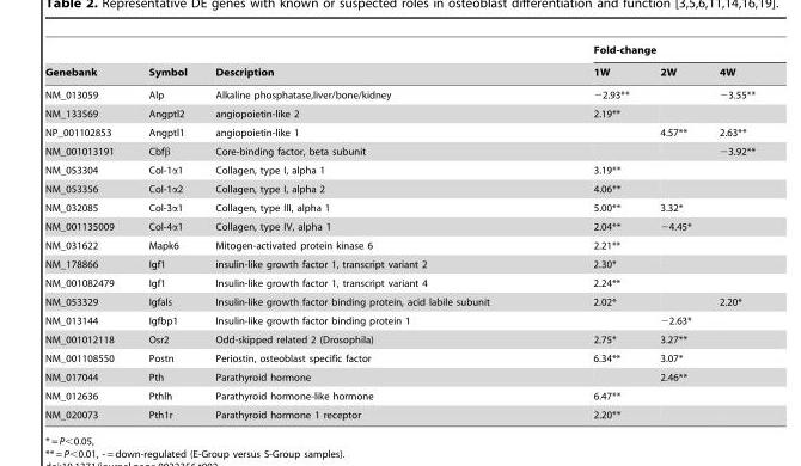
<table><thead><tr><td rowspan="2">Genebank</td><td rowspan="2">Symbol</td><td rowspan="2">Description</td><td colspan="3">Fold-change</td></tr><tr><td>1W</td><td>2W</td><td>4W</td></tr></thead><tbody><tr><td>NM_013059</td><td>Alp</td><td>Alkaline phosphatase,liver/bone/kidney</td><td>−2.93**</td><td></td><td>−3.55**</td></tr><tr><td>NM_133569</td><td>Angptl2</td><td>angiopoietin-like 2</td><td>2.19**</td><td></td><td></td></tr><tr><td>NP_001102853</td><td>Angptl1</td><td>angiopoietin-like 1</td><td></td><td>4.57**</td><td>2.63**</td></tr><tr><td>NM_001013191</td><td>Cbfβ</td><td>Core-binding factor, beta subunit</td><td></td><td></td><td>−3.92**</td></tr><tr><td>NM_053304</td><td>Col-1α1</td><td>Collagen, type I, alpha 1</td><td>3.19**</td><td></td><td></td></tr><tr><td>NM_053356</td><td>Col-1α2</td><td>Collagen, type I, alpha 2</td><td>4.06**</td><td></td><td></td></tr><tr><td>NM_032085</td><td>Col-3α1</td><td>Collagen, type III, alpha 1</td><td>5.00**</td><td>3.32*</td><td></td></tr><tr><td>NM_001135009</td><td>Col-4α1</td><td>Collagen, type IV, alpha 1</td><td>2.04**</td><td>−4.45*</td><td></td></tr><tr><td>NM_031622</td><td>Mapk6</td><td>Mitogen-activated protein kinase 6</td><td>2.21**</td><td></td><td></td></tr><tr><td>NM_178866</td><td>Igf1</td><td>insulin-like growth factor 1, transcript variant 2</td><td>2.30*</td><td></td><td></td></tr><tr><td>NM_001082479</td><td>Igf1</td><td>Insulin-like growth factor 1, transcript variant 4</td><td>2.24**</td><td></td><td></td></tr><tr><td>NM_053329</td><td>Igfals</td><td>Insulin-like growth factor binding protein, acid labile subunit</td><td>2.02*</td><td></td><td>2.20*</td></tr><tr><td>NM_013144</td><td>Igfbp1</td><td>Insulin-like growth factor binding protein 1</td><td></td><td>−2.63*</td><td></td></tr><tr><td>NM_001012118</td><td>Osr2</td><td>Odd-skipped related 2 (Drosophila)</td><td>2.75*</td><td>3.27**</td><td></td></tr><tr><td>NM_001108550</td><td>Postn</td><td>Periostin, osteoblast specific factor</td><td>6.34**</td><td>3.07*</td><td></td></tr><tr><td>NM_017044</td><td>Pth</td><td>Parathyroid hormone</td><td></td><td>2.46**</td><td></td></tr><tr><td>NM_012636</td><td>Pthlh</td><td>Parathyroid hormone-like hormone</td><td>6.47**</td><td></td><td></td></tr><tr><td>NM_020073</td><td>Pth1r</td><td>Parathyroid hormone 1 receptor</td><td>2.20**</td><td></td><td></td></tr></tbody></table>